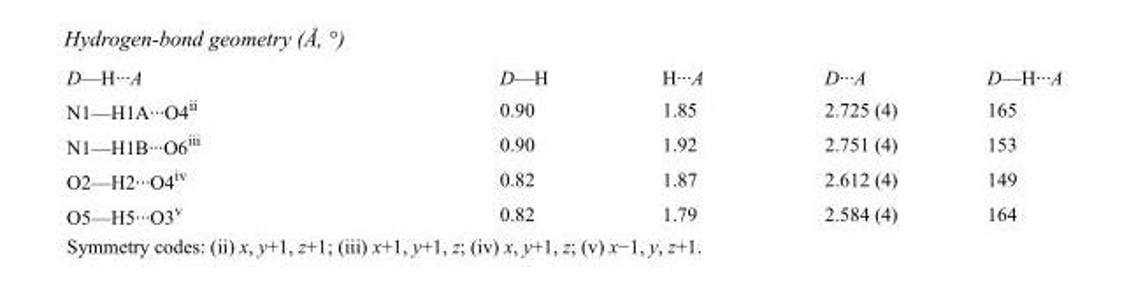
<table><tbody><tr><td>D—H···A</td><td>D—H</td><td>H···A</td><td>D···A</td><td>D—H···A</td></tr><tr><td>N1—H1A···O4<sup>ii</sup></td><td>0.90</td><td>1.85</td><td>2.725 (4)</td><td>165</td></tr><tr><td>N1—H1B···O6<sup>iii</sup></td><td>0.90</td><td>1.92</td><td>2.751 (4)</td><td>153</td></tr><tr><td>O2—H2···O4<sup>iv</sup></td><td>0.82</td><td>1.87</td><td>2.612 (4)</td><td>149</td></tr><tr><td>O5—H5···O3<sup>v</sup></td><td>0.82</td><td>1.79</td><td>2.584 (4)</td><td>164</td></tr></tbody></table>